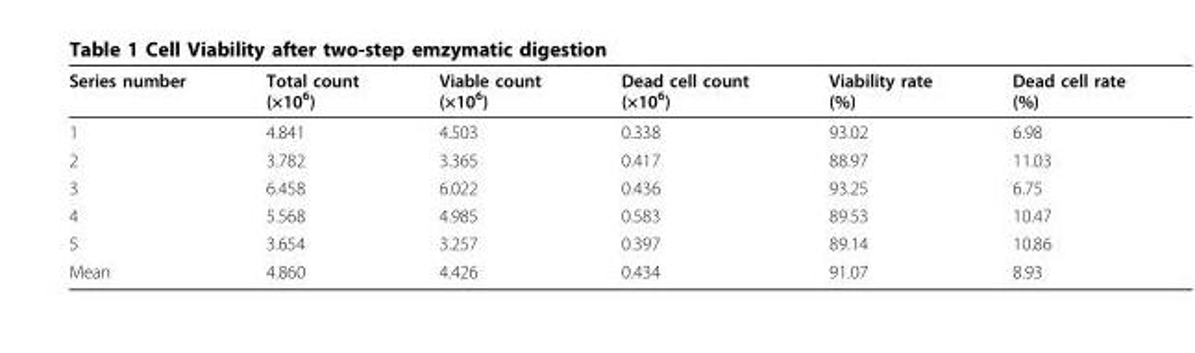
<table><thead><tr><td>Series number</td><td>Total count (×10<sup>6</sup>)</td><td>Viable count (×10<sup>6</sup>)</td><td>Dead cell count (×10<sup>6</sup>)</td><td>Viability rate (%)</td><td>Dead cell rate (%)</td></tr></thead><tbody><tr><td>1</td><td>4.841</td><td>4.503</td><td>0.338</td><td>93.02</td><td>6.98</td></tr><tr><td>2</td><td>3.782</td><td>3.365</td><td>0.417</td><td>88.97</td><td>11.03</td></tr><tr><td>3</td><td>6.458</td><td>6.022</td><td>0.436</td><td>93.25</td><td>6.75</td></tr><tr><td>4</td><td>5.568</td><td>4.985</td><td>0.583</td><td>89.53</td><td>10.47</td></tr><tr><td>5</td><td>3.654</td><td>3.257</td><td>0.397</td><td>89.14</td><td>10.86</td></tr><tr><td>Mean</td><td>4.860</td><td>4.426</td><td>0.434</td><td>91.07</td><td>8.93</td></tr></tbody></table>